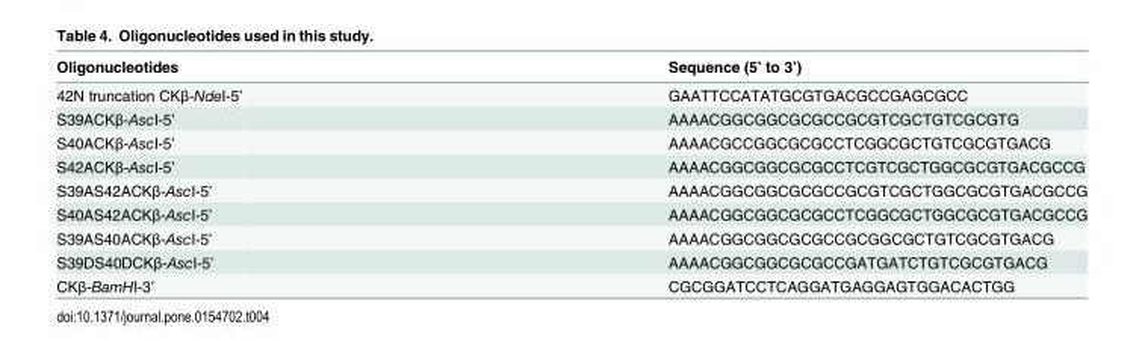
<table><thead><tr><td>Oligonucleotides</td><td>Sequence (5’ to 3’)</td></tr></thead><tbody><tr><td>42N truncation CKβ-NdeI-5’</td><td>GAATTCCATATGCGTGACGCCGAGCGCC</td></tr><tr><td>S39ACKβ-AscI-5’</td><td>AAAACGGCGGCGCGCCGCGTCGCTGTCGCGTG</td></tr><tr><td>S40ACKβ-AscI-5’</td><td>AAAACGCCGGCGCGCCTCGGCGCTGTCGCGTGACG</td></tr><tr><td>S42ACKβ-AscI-5’</td><td>AAAACGGCGGCGCGCCTCGTCGCTGGCGCGTGACGCCG</td></tr><tr><td>S39AS42ACKβ-AscI-5’</td><td>AAAACGGCGGCGCGCCGCGTCGCTGGCGCGTGACGCCG</td></tr><tr><td>S40AS42ACKβ-AscI-5’</td><td>AAAACGGCGGCGCGCCTCGGCGCTGGCGCGTGACGCCG</td></tr><tr><td>S39AS40ACKβ-AscI-5’</td><td>AAAACGGCGGCGCGCCGCGGCGCTGTCGCGTGACG</td></tr><tr><td>S39DS40DCKβ-AscI-5’</td><td>AAAACGGCGGCGCGCCGATGATCTGTCGCGTGACG</td></tr><tr><td>CKβ-BamHI-3’</td><td>CGCGGATCCTCAGGATGAGGAGTGGACACTGG</td></tr></tbody></table>